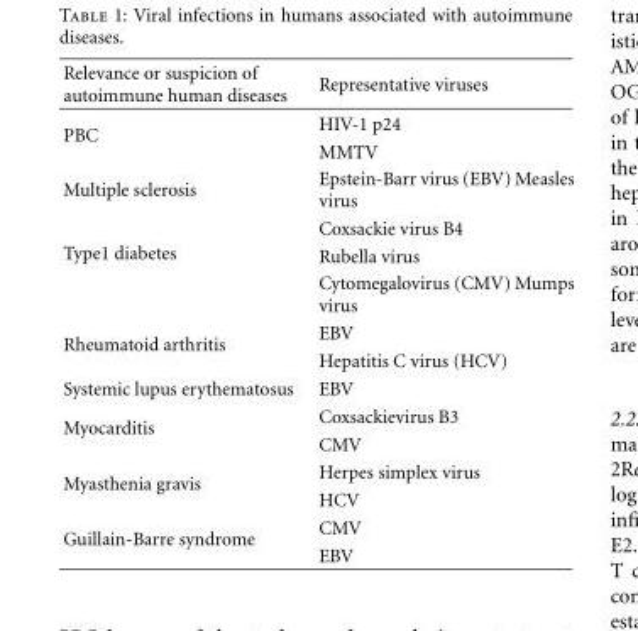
<table><thead><tr><td>Relevance or suspicion of autoimmune human diseases</td><td>Representative viruses</td></tr></thead><tbody><tr><td rowspan="2">PBC</td><td>HIV-1 p24</td></tr><tr><td>MMTV</td></tr><tr><td>Multiple sclerosis</td><td>Epstein-Barr virus (EBV) Measles virus</td></tr><tr><td rowspan="3">Type1 diabetes</td><td>Coxsackie virus B4</td></tr><tr><td>Rubella virus</td></tr><tr><td>Cytomegalovirus (CMV) Mumps virus</td></tr><tr><td rowspan="2">Rheumatoid arthritis</td><td>EBV</td></tr><tr><td>Hepatitis C virus (HCV)</td></tr><tr><td>Systemic lupus erythematosus</td><td>EBV</td></tr><tr><td rowspan="2">Myocarditis</td><td>Coxsackievirus B3</td></tr><tr><td>CMV</td></tr><tr><td rowspan="2">Myasthenia gravis</td><td>Herpes simplex virus</td></tr><tr><td>HCV</td></tr><tr><td rowspan="2">Guillain-Barre syndrome</td><td>CMV</td></tr><tr><td>EBV</td></tr></tbody></table>